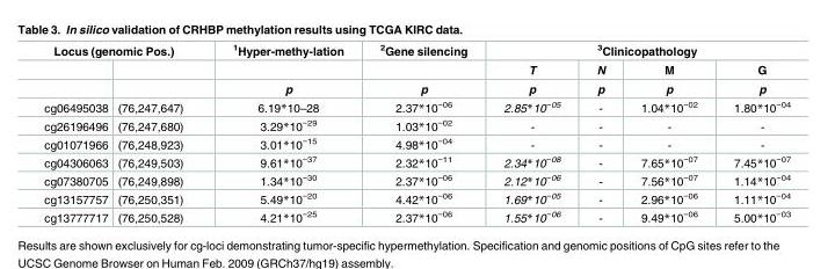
<table><thead><tr><td colspan="2">Locus (genomic Pos.)</td><td rowspan="3"><sup>1</sup>Hyper-methy-lation p</td><td rowspan="3"><sup>2</sup>Gene silencing p</td><td colspan="4"><sup>3</sup>Clinicopathology</td></tr><tr><td rowspan="2"></td><td rowspan="2"></td><td rowspan="2">T p</td><td rowspan="2">N p</td><td rowspan="2">M p</td><td rowspan="2">G p</td></tr><tr></tr></thead><tbody><tr><td>cg06495038</td><td>(76,247,647)</td><td>6.19*10–28</td><td>2.37*10<sup>−06</sup></td><td>2.85*10<sup>−05</sup></td><td>-</td><td>1.04*10<sup>−02</sup></td><td>1.80*10<sup>−04</sup></td></tr><tr><td>cg26196496</td><td>(76,247,680)</td><td>3.29*10<sup>−29</sup></td><td>1.03*10<sup>−02</sup></td><td>-</td><td>-</td><td>-</td><td>-</td></tr><tr><td>cg01071966</td><td>(76,248,923)</td><td>3.01*10<sup>−15</sup></td><td>4.98*10<sup>−04</sup></td><td>-</td><td>-</td><td>-</td><td>-</td></tr><tr><td>cg04306063</td><td>(76,249,503)</td><td>9.61*10<sup>−37</sup></td><td>2.32*10<sup>−11</sup></td><td>2.34*10<sup>−08</sup></td><td>-</td><td>7.65*10<sup>−07</sup></td><td>7.45*10<sup>−07</sup></td></tr><tr><td>cg07380705</td><td>(76,249,898)</td><td>1.34*10<sup>−30</sup></td><td>2.37*10<sup>−06</sup></td><td>2.12*10<sup>−06</sup></td><td>-</td><td>7.56*10<sup>−07</sup></td><td>1.14*10<sup>−04</sup></td></tr><tr><td>cg13157757</td><td>(76,250,351)</td><td>5.49*10<sup>−20</sup></td><td>4.42*10<sup>−06</sup></td><td>1.69*10<sup>−05</sup></td><td>-</td><td>2.96*10<sup>−06</sup></td><td>1.11*10<sup>−04</sup></td></tr><tr><td>cg13777717</td><td>(76,250,528)</td><td>4.21*10<sup>−25</sup></td><td>2.37*10<sup>−06</sup></td><td>1.55*10<sup>−06</sup></td><td>-</td><td>9.49*10<sup>−06</sup></td><td>5.00*10<sup>−03</sup></td></tr></tbody></table>